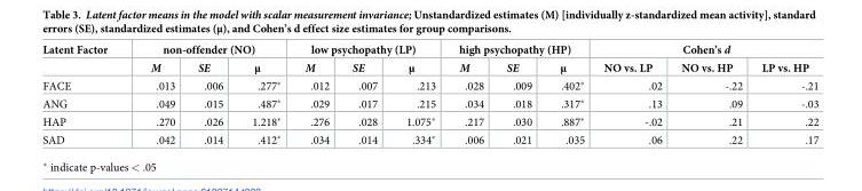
<table><thead><tr><td rowspan="2">Latent Factor</td><td colspan="3">non-offender (NO)</td><td colspan="3">low psychopathy (LP)</td><td colspan="3">high psychopathy (HP)</td><td colspan="3">Cohen’s d</td></tr><tr><td>M</td><td>SE</td><td>μ</td><td>M</td><td>SE</td><td>μ</td><td>M</td><td>SE</td><td>μ</td><td>NO vs. LP</td><td>NO vs. HP</td><td>LP vs. HP</td></tr></thead><tbody><tr><td>FACE</td><td>.013</td><td>.006</td><td>.277*</td><td>.012</td><td>.007</td><td>.213</td><td>.028</td><td>.009</td><td>.402*</td><td>.02</td><td>-.22</td><td>-.21</td></tr><tr><td>ANG</td><td>.049</td><td>.015</td><td>.487*</td><td>.029</td><td>.017</td><td>.215</td><td>.034</td><td>.018</td><td>.317*</td><td>.13</td><td>.09</td><td>-.03</td></tr><tr><td>HAP</td><td>.270</td><td>.026</td><td>1.218*</td><td>.276</td><td>.028</td><td>1.075*</td><td>.217</td><td>.030</td><td>.887*</td><td>-.02</td><td>.21</td><td>.22</td></tr><tr><td>SAD</td><td>.042</td><td>.014</td><td>.412*</td><td>.034</td><td>.014</td><td>.334*</td><td>.006</td><td>.021</td><td>.035</td><td>.06</td><td>.22</td><td>.17</td></tr></tbody></table>